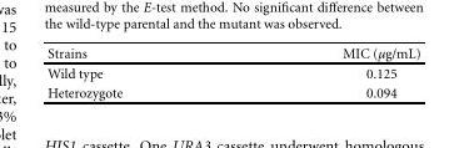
<table><thead><tr><td>Strains</td><td>MIC (μg/mL)</td></tr></thead><tbody><tr><td>Wild type</td><td>0.125</td></tr><tr><td>Heterozygote</td><td>0.094</td></tr></tbody></table>